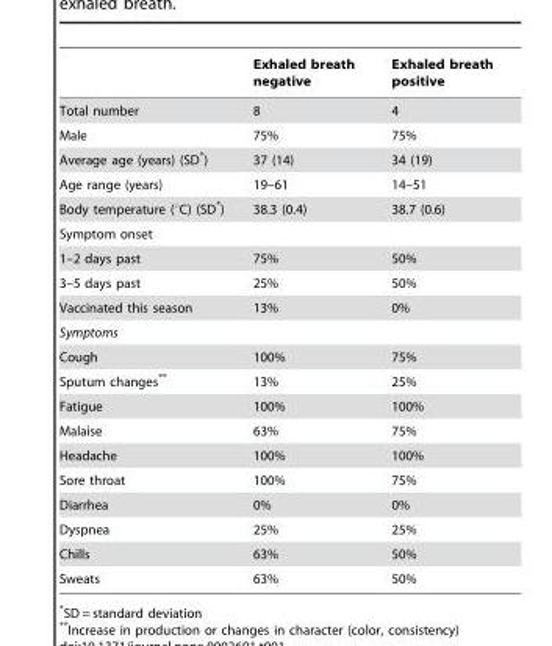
<table><thead><tr><td></td><td>Exhaled breath negative</td><td>Exhaled breath positive</td></tr></thead><tbody><tr><td>Total number</td><td>8</td><td>4</td></tr><tr><td>Male</td><td>75%</td><td>75%</td></tr><tr><td>Average age (years) (SD*)</td><td>37 (14)</td><td>34 (19)</td></tr><tr><td>Age range (years)</td><td>19–61</td><td>14–51</td></tr><tr><td>Body temperature (°C) (SD*)</td><td>38.3 (0.4)</td><td>38.7 (0.6)</td></tr><tr><td colspan="3">Symptom onset</td></tr><tr><td>1–2 days past</td><td>75%</td><td>50%</td></tr><tr><td>3–5 days past</td><td>25%</td><td>50%</td></tr><tr><td>Vaccinated this season</td><td>13%</td><td>0%</td></tr><tr><td colspan="3">Symptoms</td></tr><tr><td>Cough</td><td>100%</td><td>75%</td></tr><tr><td>Sputum changes**</td><td>13%</td><td>25%</td></tr><tr><td>Fatigue</td><td>100%</td><td>100%</td></tr><tr><td>Malaise</td><td>63%</td><td>75%</td></tr><tr><td>Headache</td><td>100%</td><td>100%</td></tr><tr><td>Sore throat</td><td>100%</td><td>75%</td></tr><tr><td>Diarrhea</td><td>0%</td><td>0%</td></tr><tr><td>Dyspnea</td><td>25%</td><td>25%</td></tr><tr><td>Chills</td><td>63%</td><td>50%</td></tr><tr><td>Sweats</td><td>63%</td><td>50%</td></tr></tbody></table>